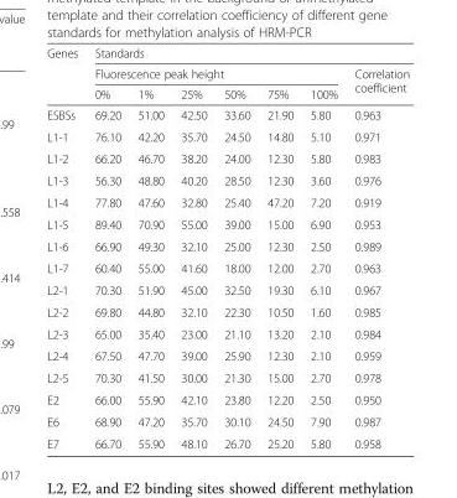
<table><thead><tr><td rowspan="3">Genes</td><td colspan="7">Standards</td></tr><tr><td colspan="6">Fluorescence peak height</td><td rowspan="2">Correlation coefficient</td></tr><tr><td>0%</td><td>1%</td><td>25%</td><td>50%</td><td>75%</td><td>100%</td></tr></thead><tbody><tr><td>ESBSs</td><td>69.20</td><td>51.00</td><td>42.50</td><td>33.60</td><td>21.90</td><td>5.80</td><td>0.963</td></tr><tr><td>L1-1</td><td>76.10</td><td>42.20</td><td>35.70</td><td>24.50</td><td>14.80</td><td>5.10</td><td>0.971</td></tr><tr><td>L1-2</td><td>66.20</td><td>46.70</td><td>38.20</td><td>24.00</td><td>12.30</td><td>5.80</td><td>0.983</td></tr><tr><td>L1-3</td><td>56.30</td><td>48.80</td><td>40.20</td><td>28.50</td><td>12.30</td><td>3.60</td><td>0.976</td></tr><tr><td>L1-4</td><td>77.80</td><td>47.60</td><td>32.80</td><td>25.40</td><td>47.20</td><td>7.20</td><td>0.919</td></tr><tr><td>L1-5</td><td>89.40</td><td>70.90</td><td>55.00</td><td>39.00</td><td>15.00</td><td>6.90</td><td>0.953</td></tr><tr><td>L1-6</td><td>66.90</td><td>49.30</td><td>32.10</td><td>25.00</td><td>12.30</td><td>2.50</td><td>0.989</td></tr><tr><td>L1-7</td><td>60.40</td><td>55.00</td><td>41.60</td><td>18.00</td><td>12.00</td><td>2.70</td><td>0.963</td></tr><tr><td>L2-1</td><td>70.30</td><td>51.90</td><td>45.00</td><td>32.50</td><td>19.30</td><td>6.10</td><td>0.967</td></tr><tr><td>L2-2</td><td>69.80</td><td>44.80</td><td>32.10</td><td>22.30</td><td>10.50</td><td>1.60</td><td>0.985</td></tr><tr><td>L2-3</td><td>65.00</td><td>35.40</td><td>23.00</td><td>21.10</td><td>13.20</td><td>2.10</td><td>0.984</td></tr><tr><td>L2-4</td><td>67.50</td><td>47.70</td><td>39.00</td><td>25.90</td><td>12.30</td><td>2.10</td><td>0.959</td></tr><tr><td>L2-5</td><td>70.30</td><td>41.50</td><td>30.00</td><td>21.30</td><td>15.00</td><td>2.70</td><td>0.978</td></tr><tr><td>E2</td><td>66.00</td><td>55.90</td><td>42.10</td><td>23.80</td><td>12.20</td><td>2.50</td><td>0.950</td></tr><tr><td>E6</td><td>68.90</td><td>47.20</td><td>35.70</td><td>30.10</td><td>24.50</td><td>7.90</td><td>0.987</td></tr><tr><td>E7</td><td>66.70</td><td>55.90</td><td>48.10</td><td>26.70</td><td>25.20</td><td>5.80</td><td>0.958</td></tr></tbody></table>